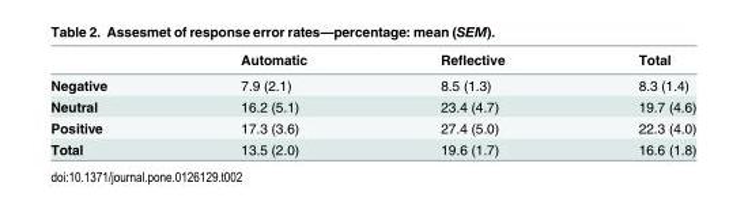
<table><thead><tr><td></td><td>Automatic</td><td>Reflective</td><td>Total</td></tr></thead><tbody><tr><td>Negative</td><td>7.9 (2.1)</td><td>8.5 (1.3)</td><td>8.3 (1.4)</td></tr><tr><td>Neutral</td><td>16.2 (5.1)</td><td>23.4 (4.7)</td><td>19.7 (4.6)</td></tr><tr><td>Positive</td><td>17.3 (3.6)</td><td>27.4 (5.0)</td><td>22.3 (4.0)</td></tr><tr><td>Total</td><td>13.5 (2.0)</td><td>19.6 (1.7)</td><td>16.6 (1.8)</td></tr></tbody></table>